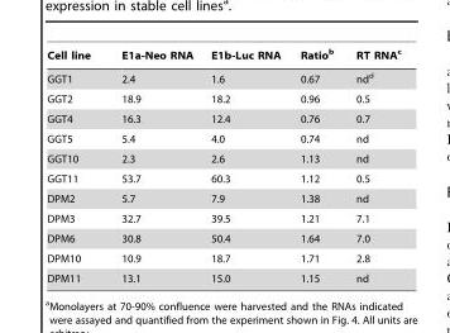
<table><thead><tr><td>Cell line</td><td>E1a-Neo RNA</td><td>E1b-Luc RNA</td><td>Ratio<sup>b</sup></td><td>RT RNA<sup>c</sup></td></tr></thead><tbody><tr><td>GGT1</td><td>2.4</td><td>1.6</td><td>0.67</td><td>nd<sup>d</sup></td></tr><tr><td>GGT2</td><td>18.9</td><td>18.2</td><td>0.96</td><td>0.5</td></tr><tr><td>GGT4</td><td>16.3</td><td>12.4</td><td>0.76</td><td>0.7</td></tr><tr><td>GGT5</td><td>5.4</td><td>4.0</td><td>0.74</td><td>nd</td></tr><tr><td>GGT10</td><td>2.3</td><td>2.6</td><td>1.13</td><td>nd</td></tr><tr><td>GGT11</td><td>53.7</td><td>60.3</td><td>1.12</td><td>0.5</td></tr><tr><td>DPM2</td><td>5.7</td><td>7.9</td><td>1.38</td><td>nd</td></tr><tr><td>DPM3</td><td>32.7</td><td>39.5</td><td>1.21</td><td>7.1</td></tr><tr><td>DPM6</td><td>30.8</td><td>50.4</td><td>1.64</td><td>7.0</td></tr><tr><td>DPM10</td><td>10.9</td><td>18.7</td><td>1.71</td><td>2.8</td></tr><tr><td>DPM11</td><td>13.1</td><td>15.0</td><td>1.15</td><td>nd</td></tr></tbody></table>